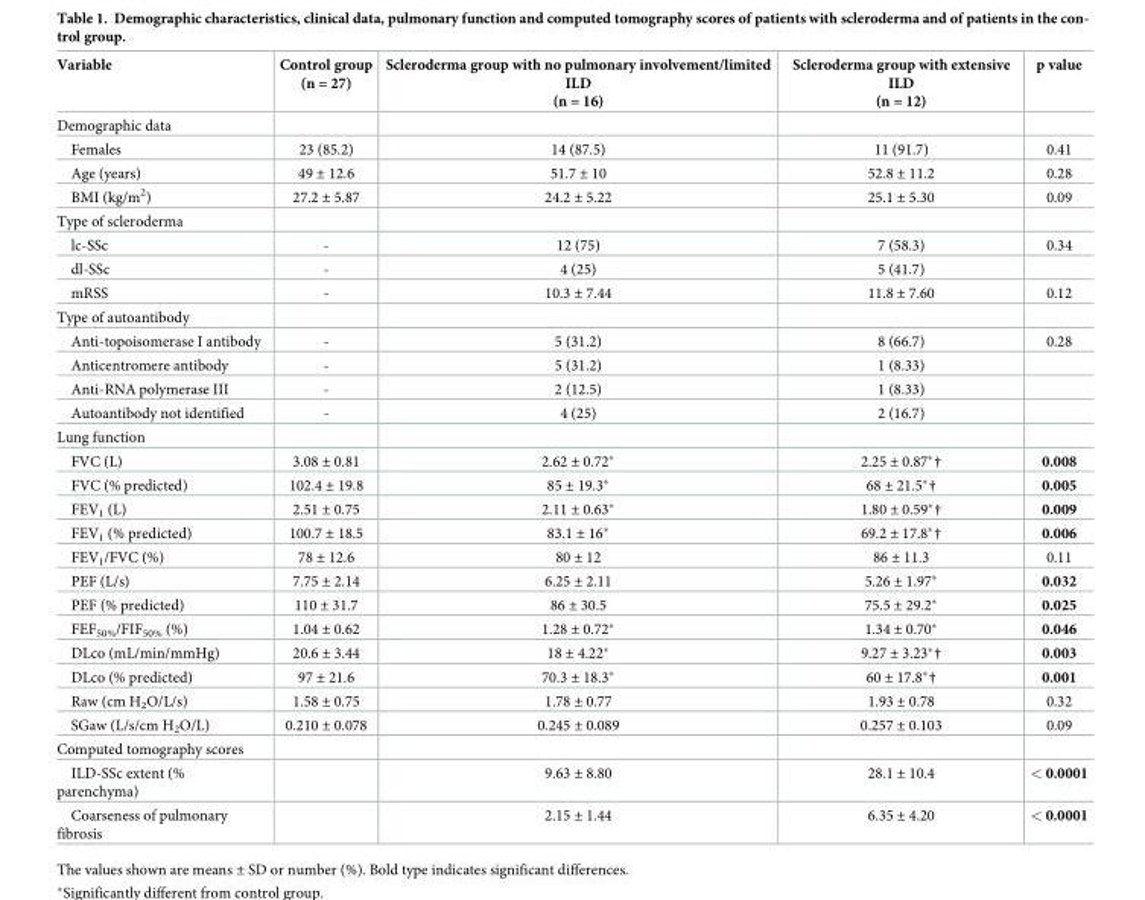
<table><thead><tr><td>Variable</td><td>Control group (n = 27)</td><td>Scleroderma group with no pulmonary involvement/limited ILD (n = 16)</td><td>Scleroderma group with extensive ILD (n = 12)</td><td>p value</td></tr></thead><tbody><tr><td colspan="5">Demographic data</td></tr><tr><td>Females</td><td>23 (85.2)</td><td>14 (87.5)</td><td>11 (91.7)</td><td>0.41</td></tr><tr><td>Age (years)</td><td>49 ± 12.6</td><td>51.7 ± 10</td><td>52.8 ± 11.2</td><td>0.28</td></tr><tr><td>BMI (kg/m<sup>2</sup>)</td><td>27.2 ± 5.87</td><td>24.2 ± 5.22</td><td>25.1 ± 5.30</td><td>0.09</td></tr><tr><td colspan="5">Type of scleroderma</td></tr><tr><td>lc-SSc</td><td>-</td><td>12 (75)</td><td>7 (58.3)</td><td>0.34</td></tr><tr><td>dl-SSc</td><td>-</td><td>4 (25)</td><td>5 (41.7)</td><td></td></tr><tr><td>mRSS</td><td>-</td><td>10.3 ± 7.44</td><td>11.8 ± 7.60</td><td>0.12</td></tr><tr><td colspan="5">Type of autoantibody</td></tr><tr><td>Anti-topoisomerase I antibody</td><td>-</td><td>5 (31.2)</td><td>8 (66.7)</td><td>0.28</td></tr><tr><td>Anticentromere antibody</td><td>-</td><td>5 (31.2)</td><td>1 (8.33)</td><td></td></tr><tr><td>Anti-RNA polymerase III</td><td>-</td><td>2 (12.5)</td><td>1 (8.33)</td><td></td></tr><tr><td>Autoantibody not identified</td><td>-</td><td>4 (25)</td><td>2 (16.7)</td><td></td></tr><tr><td colspan="5">Lung function</td></tr><tr><td>FVC (L)</td><td>3.08 ± 0.81</td><td>2.62 ± 0.72*</td><td>2.25 ± 0.87*†</td><td>0.008</td></tr><tr><td>FVC (% predicted)</td><td>102.4 ± 19.8</td><td>85 ± 19.3*</td><td>68 ± 21.5*†</td><td>0.005</td></tr><tr><td>FEV<sub>1</sub> (L)</td><td>2.51 ± 0.75</td><td>2.11 ± 0.63*</td><td>1.80 ± 0.59*†</td><td>0.009</td></tr><tr><td>FEV<sub>1</sub> (% predicted)</td><td>100.7 ± 18.5</td><td>83.1 ± 16*</td><td>69.2 ± 17.8*†</td><td>0.006</td></tr><tr><td>FEV<sub>1</sub>/FVC (%)</td><td>78 ± 12.6</td><td>80 ± 12</td><td>86 ± 11.3</td><td>0.11</td></tr><tr><td>PEF (L/s)</td><td>7.75 ± 2.14</td><td>6.25 ± 2.11</td><td>5.26 ± 1.97*</td><td>0.032</td></tr><tr><td>PEF (% predicted)</td><td>110 ± 31.7</td><td>86 ± 30.5</td><td>75.5 ± 29.2*</td><td>0.025</td></tr><tr><td>FEF<sub>50%</sub>/FIF<sub>50%</sub> (%)</td><td>1.04 ± 0.62</td><td>1.28 ± 0.72*</td><td>1.34 ± 0.70*</td><td>0.046</td></tr><tr><td>DLco (mL/min/mmHg)</td><td>20.6 ± 3.44</td><td>18 ± 4.22*</td><td>9.27 ± 3.23*†</td><td>0.003</td></tr><tr><td>DLco (% predicted)</td><td>97 ± 21.6</td><td>70.3 ± 18.3*</td><td>60 ± 17.8*†</td><td>0.001</td></tr><tr><td>Raw (cm H<sub>2</sub>O/L/s)</td><td>1.58 ± 0.75</td><td>1.78 ± 0.77</td><td>1.93 ± 0.78</td><td>0.32</td></tr><tr><td>SGaw (L/s/cm H<sub>2</sub>O/L)</td><td>0.210 ± 0.078</td><td>0.245 ± 0.089</td><td>0.257 ± 0.103</td><td>0.09</td></tr><tr><td colspan="5">Computed tomography scores</td></tr><tr><td>ILD-SSc extent (% parenchyma)</td><td></td><td>9.63 ± 8.80</td><td>28.1 ± 10.4</td><td>&lt; 0.0001</td></tr><tr><td>Coarseness of pulmonary fibrosis</td><td></td><td>2.15 ± 1.44</td><td>6.35 ± 4.20</td><td>&lt; 0.0001</td></tr></tbody></table>